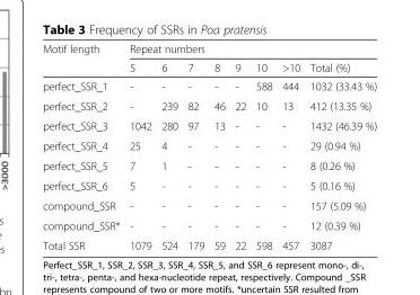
<table><thead><tr><td rowspan="2">Motif length</td><td colspan="8">Repeat numbers</td></tr><tr><td>5</td><td>6</td><td>7</td><td>8</td><td>9</td><td>10</td><td>&gt;10</td><td>Total (%)</td></tr></thead><tbody><tr><td>perfect_SSR_1</td><td>-</td><td>-</td><td>-</td><td>-</td><td>-</td><td>588</td><td>444</td><td>1032 (33.43 %)</td></tr><tr><td>perfect_SSR_2</td><td>-</td><td>239</td><td>82</td><td>46</td><td>22</td><td>10</td><td>13</td><td>412 (13.35 %)</td></tr><tr><td>perfect_SSR_3</td><td>1042</td><td>280</td><td>97</td><td>13</td><td>-</td><td>-</td><td>-</td><td>1432 (46.39 %)</td></tr><tr><td>perfect_SSR_4</td><td>25</td><td>4</td><td>-</td><td>-</td><td>-</td><td>-</td><td>-</td><td>29 (0.94 %)</td></tr><tr><td>perfect_SSR_5</td><td>7</td><td>1</td><td>-</td><td>-</td><td>-</td><td>-</td><td>-</td><td>8 (0.26 %)</td></tr><tr><td>perfect_SSR_6</td><td>5</td><td>-</td><td>-</td><td>-</td><td>-</td><td>-</td><td>-</td><td>5 (0.16 %)</td></tr><tr><td>compound_SSR</td><td>-</td><td>-</td><td>-</td><td>-</td><td>-</td><td>-</td><td>-</td><td>157 (5.09 %)</td></tr><tr><td>compound_SSR*</td><td>-</td><td>-</td><td>-</td><td>-</td><td>-</td><td>-</td><td>-</td><td>12 (0.39 %)</td></tr><tr><td>Total SSR</td><td>1079</td><td>524</td><td>179</td><td>59</td><td>22</td><td>598</td><td>457</td><td>3087</td></tr></tbody></table>